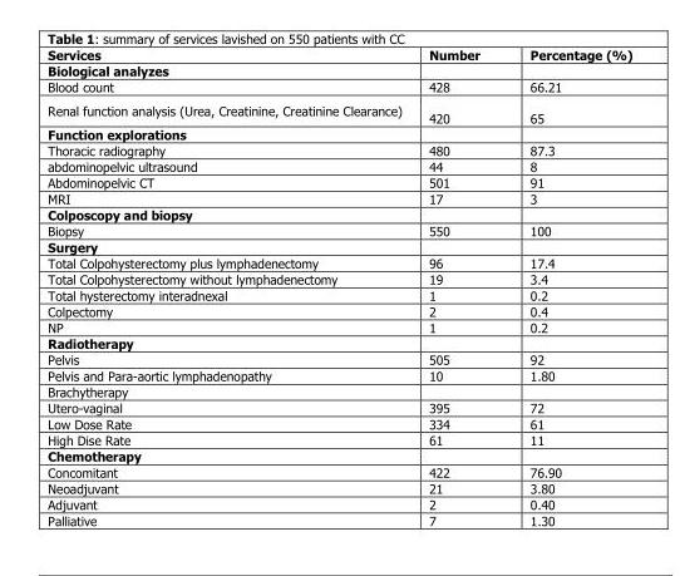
<table><thead><tr><td>Services</td><td>Number</td><td>Percentage (%)</td></tr></thead><tbody><tr><td colspan="3">Biological analyzes</td></tr><tr><td>Blood count</td><td>428</td><td>66.21</td></tr><tr><td>Renal function analysis (Urea, Creatinine, Creatinine Clearance)</td><td>420</td><td>65</td></tr><tr><td colspan="3">Function explorations</td></tr><tr><td>Thoracic radiography</td><td>480</td><td>87.3</td></tr><tr><td>abdominopelvic ultrasound</td><td>44</td><td>8</td></tr><tr><td>Abdominopelvic CT</td><td>501</td><td>91</td></tr><tr><td>MRI</td><td>17</td><td>3</td></tr><tr><td colspan="3">Colposcopy and biopsy</td></tr><tr><td>Biopsy</td><td>550</td><td>100</td></tr><tr><td colspan="3">Surgery</td></tr><tr><td>Total Colpohysterectomy plus lymphadenectomy</td><td>96</td><td>17.4</td></tr><tr><td>Total Colpohysterectomy without lymphadenectomy</td><td>19</td><td>3.4</td></tr><tr><td>Total hysterectomy interadnexal</td><td>1</td><td>0.2</td></tr><tr><td>Colpectomy</td><td>2</td><td>0.4</td></tr><tr><td>NP</td><td>1</td><td>0.2</td></tr><tr><td colspan="3">Radiotherapy</td></tr><tr><td>Pelvis</td><td>505</td><td>92</td></tr><tr><td>Pelvis and Para-aortic lymphadenopathy</td><td>10</td><td>1.80</td></tr><tr><td colspan="3">Brachytherapy</td></tr><tr><td>Utero-vaginal</td><td>395</td><td>72</td></tr><tr><td>Low Dose Rate</td><td>334</td><td>61</td></tr><tr><td>High Dise Rate</td><td>61</td><td>11</td></tr><tr><td colspan="3">Chemotherapy</td></tr><tr><td>Concomitant</td><td>422</td><td>76.90</td></tr><tr><td>Neoadjuvant</td><td>21</td><td>3.80</td></tr><tr><td>Adjuvant</td><td>2</td><td>0.40</td></tr><tr><td>Palliative</td><td>7</td><td>1.30</td></tr></tbody></table>